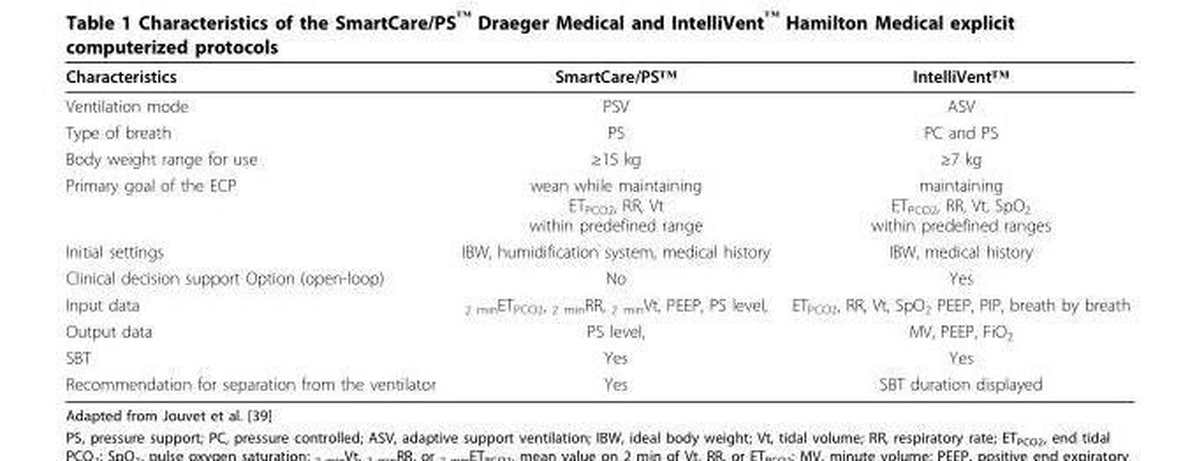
<table><thead><tr><td>Characteristics</td><td>SmartCare/PS™</td><td>IntelliVent™</td></tr></thead><tbody><tr><td>Ventilation mode</td><td>PSV</td><td>ASV</td></tr><tr><td>Type of breath</td><td>PS</td><td>PC and PS</td></tr><tr><td>Body weight range for use</td><td>≥15 kg</td><td>≥7 kg</td></tr><tr><td>Primary goal of the ECP</td><td>wean while maintaining ET<sub>PCO2</sub>, RR, Vt within predefined range</td><td>maintaining ET<sub>PCO2</sub>, RR, Vt, SpO<sub>2</sub> within predefined ranges</td></tr><tr><td>Initial settings</td><td>IBW, humidification system, medical history</td><td>IBW, medical history</td></tr><tr><td>Clinical decision support Option (open-loop)</td><td>No</td><td>Yes</td></tr><tr><td>Input data</td><td><sub>2 min</sub>ET<sub>PCO2</sub>, <sub>2 min</sub>RR, <sub>2 min</sub>Vt, PEEP, PS level,</td><td>ET<sub>PCO2</sub>, RR, Vt, SpO<sub>2</sub> PEEP, PIP, breath by breath</td></tr><tr><td>Output data</td><td>PS level,</td><td>MV, PEEP, FiO<sub>2</sub></td></tr><tr><td>SBT</td><td>Yes</td><td>Yes</td></tr><tr><td>Recommendation for separation from the ventilator</td><td>Yes</td><td>SBT duration displayed</td></tr></tbody></table>